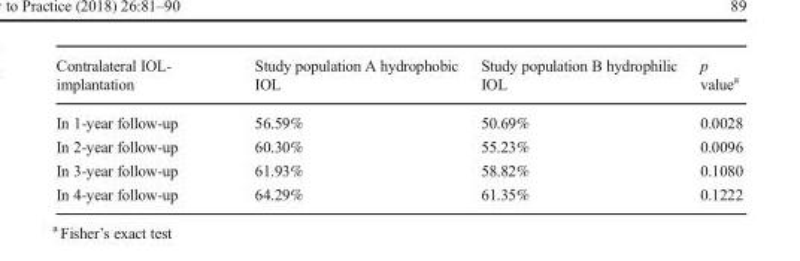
<table><thead><tr><td>Contralateral IOL- implantation</td><td>Study population A hydrophobic IOL</td><td>Study population B hydrophilic IOL</td><td>p value<sup>a</sup></td></tr></thead><tbody><tr><td>In 1-year follow-up</td><td>56.59%</td><td>50.69%</td><td>0.0028</td></tr><tr><td>In 2-year follow-up</td><td>60.30%</td><td>55.23%</td><td>0.0096</td></tr><tr><td>In 3-year follow-up</td><td>61.93%</td><td>58.82%</td><td>0.1080</td></tr><tr><td>In 4-year follow-up</td><td>64.29%</td><td>61.35%</td><td>0.1222</td></tr></tbody></table>